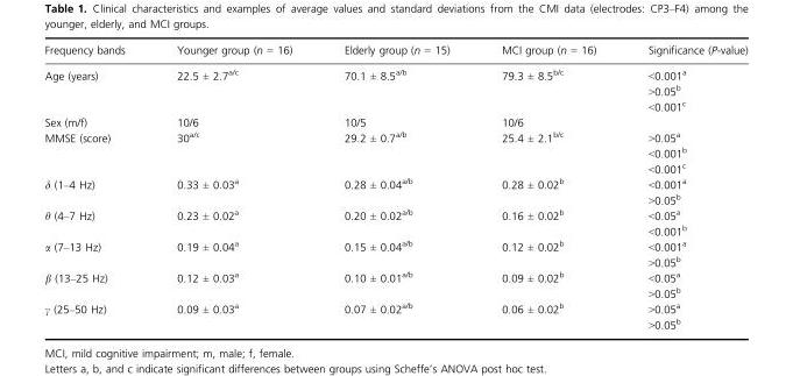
<table><thead><tr><td>Frequency bands</td><td>Younger group (n = 16)</td><td>Elderly group (n = 15)</td><td>MCI group (n = 16)</td><td>Significance (P-value)</td></tr></thead><tbody><tr><td rowspan="3">Age (years)</td><td>22.5 ± 2.7<sup>a/c</sup></td><td>70.1 ± 8.5<sup>a/b</sup></td><td>79.3 ± 8.5<sup>b/c</sup></td><td>&lt;0.001<sup>a</sup></td></tr><tr><td></td><td></td><td></td><td>&gt;0.05<sup>b</sup></td></tr><tr><td></td><td></td><td></td><td>&lt;0.001<sup>c</sup></td></tr><tr><td>Sex (m/f)</td><td>10/6</td><td>10/5</td><td>10/6</td><td></td></tr><tr><td rowspan="3">MMSE (score)</td><td>30<sup>a/c</sup></td><td>29.2 ± 0.7<sup>a/b</sup></td><td>25.4 ± 2.1<sup>b/c</sup></td><td>&gt;0.05<sup>a</sup></td></tr><tr><td></td><td></td><td></td><td>&lt;0.001<sup>b</sup></td></tr><tr><td></td><td></td><td></td><td>&lt;0.001<sup>c</sup></td></tr><tr><td rowspan="2">δ (1–4 Hz)</td><td>0.33 ± 0.03<sup>a</sup></td><td>0.28 ± 0.04<sup>a/b</sup></td><td>0.28 ± 0.02<sup>b</sup></td><td>&lt;0.001<sup>a</sup></td></tr><tr><td></td><td></td><td></td><td>&gt;0.05<sup>b</sup></td></tr><tr><td rowspan="2">θ (4–7 Hz)</td><td>0.23 ± 0.02<sup>a</sup></td><td>0.20 ± 0.02<sup>a/b</sup></td><td>0.16 ± 0.02<sup>b</sup></td><td>&lt;0.05<sup>a</sup></td></tr><tr><td></td><td></td><td></td><td>&lt;0.001<sup>b</sup></td></tr><tr><td rowspan="2">α (7–13 Hz)</td><td>0.19 ± 0.04<sup>a</sup></td><td>0.15 ± 0.04<sup>a/b</sup></td><td>0.12 ± 0.02<sup>b</sup></td><td>&lt;0.001<sup>a</sup></td></tr><tr><td></td><td></td><td></td><td>&gt;0.05<sup>b</sup></td></tr><tr><td rowspan="2">β (13–25 Hz)</td><td>0.12 ± 0.03<sup>a</sup></td><td>0.10 ± 0.01<sup>a/b</sup></td><td>0.09 ± 0.02<sup>b</sup></td><td>&lt;0.05<sup>a</sup></td></tr><tr><td></td><td></td><td></td><td>&gt;0.05<sup>b</sup></td></tr><tr><td rowspan="2">γ (25–50 Hz)</td><td>0.09 ± 0.03<sup>a</sup></td><td>0.07 ± 0.02<sup>a/b</sup></td><td>0.06 ± 0.02<sup>b</sup></td><td>&gt;0.05<sup>a</sup></td></tr><tr><td></td><td></td><td></td><td>&gt;0.05<sup>b</sup></td></tr></tbody></table>